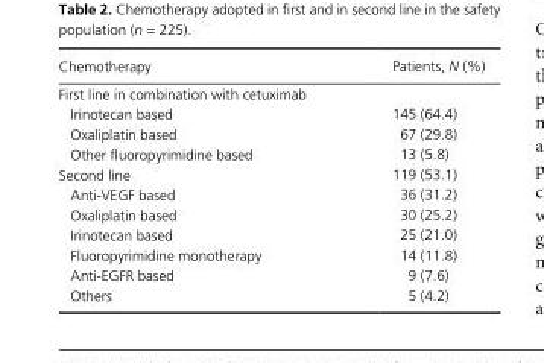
<table><thead><tr><td>Chemotherapy</td><td>Patients, N (%)</td></tr></thead><tbody><tr><td colspan="2">First line in combination with cetuximab</td></tr><tr><td>Irinotecan based</td><td>145 (64.4)</td></tr><tr><td>Oxaliplatin based</td><td>67 (29.8)</td></tr><tr><td>Other fluoropyrimidine based</td><td>13 (5.8)</td></tr><tr><td>Second line</td><td>119 (53.1)</td></tr><tr><td>Anti- VEGF based</td><td>36 (31.2)</td></tr><tr><td>Oxaliplatin based</td><td>30 (25.2)</td></tr><tr><td>Irinotecan based</td><td>25 (21.0)</td></tr><tr><td>Fluoropyrimidine monotherapy</td><td>14 (11.8)</td></tr><tr><td>Anti- EGFR based</td><td>9 (7.6)</td></tr><tr><td>Others</td><td>5 (4.2)</td></tr></tbody></table>